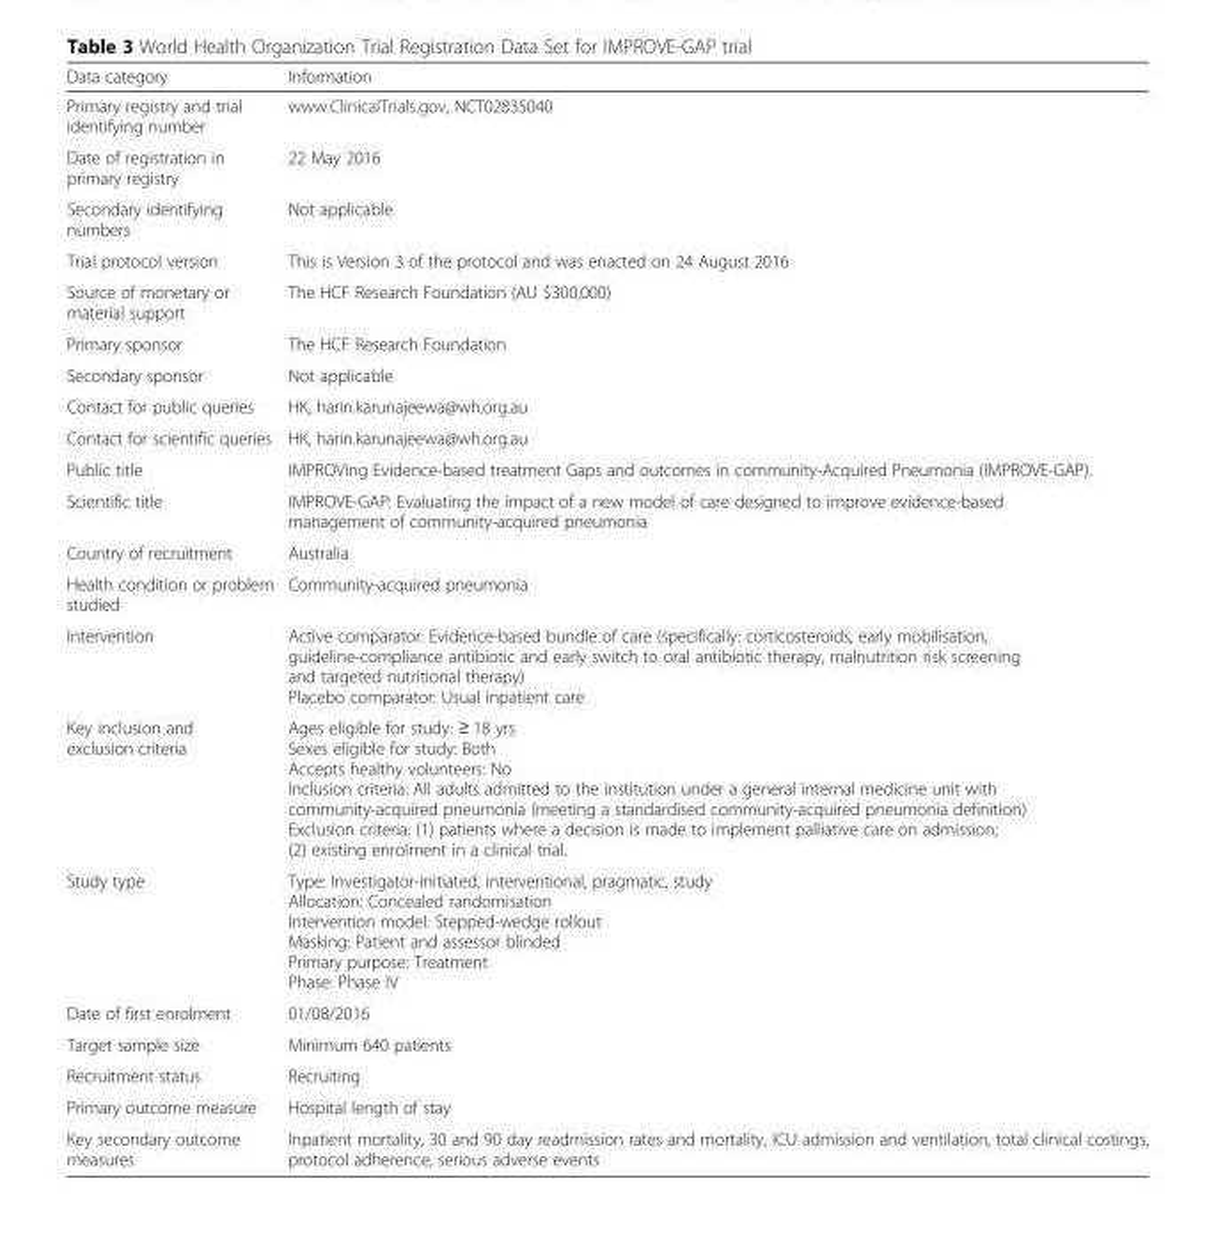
<table><thead><tr><td>Data category</td><td>Information</td></tr></thead><tbody><tr><td>Primary registry and trial identifying number</td><td>www.ClinicalTrials.gov, NCT02835040</td></tr><tr><td>Date of registration in primary registry</td><td>22 May 2016</td></tr><tr><td>Secondary identifying numbers</td><td>Not applicable</td></tr><tr><td>Trial protocol version</td><td>This is Version 3 of the protocol and was enacted on 24 August 2016</td></tr><tr><td>Source of monetary or material support</td><td>The HCF Research Foundation (AU $300,000)</td></tr><tr><td>Primary sponsor</td><td>The HCF Research Foundation</td></tr><tr><td>Secondary sponsor</td><td>Not applicable</td></tr><tr><td>Contact for public queries</td><td>HK, harin.karunajeewa@wh.org.au</td></tr><tr><td>Contact for scientific queries</td><td>HK, harin.karunajeewa@wh.org.au</td></tr><tr><td>Public title</td><td>IMPROVing Evidence-based treatment Gaps and outcomes in community-Acquired Pneumonia (IMPROVE-GAP).</td></tr><tr><td>Scientific title</td><td>IMPROVE-GAP: Evaluating the impact of a new model of care designed to improve evidence-based management of community-acquired pneumonia</td></tr><tr><td>Country of recruitment</td><td>Australia</td></tr><tr><td>Health condition or problem studied</td><td>Community-acquired pneumonia</td></tr><tr><td>Intervention</td><td>Active comparator: Evidence-based bundle of care (specifically: corticosteroids, early mobilisation, guideline-compliance antibiotic and early switch to oral antibiotic therapy, malnutrition risk screening and targeted nutritional therapy) Placebo comparator: Usual inpatient care</td></tr><tr><td>Key inclusion and exclusion criteria</td><td>Ages eligible for study: ≥ 18 yrs Sexes eligible for study: Both Accepts healthy volunteers: No Inclusion criteria: All adults admitted to the institution under a general internal medicine unit with community-acquired pneumonia (meeting a standardised community-acquired pneumonia definition) Exclusion criteria: (1) patients where a decision is made to implement palliative care on admission; (2) existing enrolment in a clinical trial.</td></tr><tr><td>Study type</td><td>Type: Investigator-initiated, interventional, pragmatic, study Allocation: Concealed randomisation Intervention model: Stepped-wedge rollout Masking: Patient and assessor blinded Primary purpose: Treatment Phase: Phase IV</td></tr><tr><td>Date of first enrolment</td><td>01/08/2016</td></tr><tr><td>Target sample size</td><td>Minimum 640 patients</td></tr><tr><td>Recruitment status</td><td>Recruiting</td></tr><tr><td>Primary outcome measure</td><td>Hospital length of stay</td></tr><tr><td>Key secondary outcome measures</td><td>Inpatient mortality, 30 and 90 day readmission rates and mortality, ICU admission and ventilation, total clinical costings, protocol adherence, serious adverse events</td></tr></tbody></table>